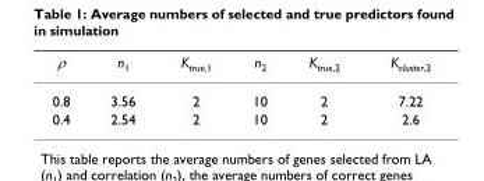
<table><thead><tr><td>ρ</td><td>n<sub>1</sub></td><td>K<sub>true,1</sub></td><td>n<sub>2</sub></td><td>K<sub>true,2</sub></td><td>K<sub>cluster,2</sub></td></tr></thead><tbody><tr><td>0.8</td><td>3.56</td><td>2</td><td>10</td><td>2</td><td>7.22</td></tr><tr><td>0.4</td><td>2.54</td><td>2</td><td>10</td><td>2</td><td>2.6</td></tr></tbody></table>